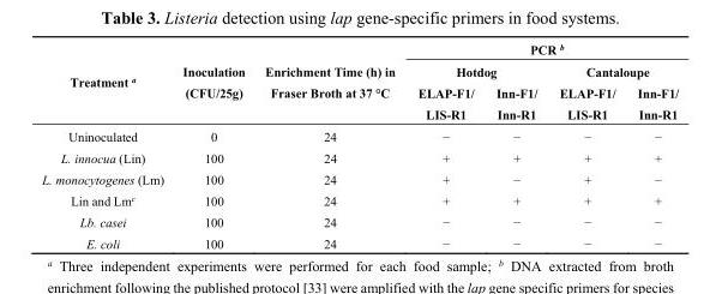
<table><thead><tr><td rowspan="3">Treatment <sup>a</sup></td><td rowspan="3">Inoculation (CFU/25g)</td><td rowspan="3">Enrichment Time (h) in Fraser Broth at 37 °C</td><td colspan="4">PCR <sup>b</sup></td></tr><tr><td colspan="2">Hotdog</td><td colspan="2">Cantaloupe</td></tr><tr><td>ELAP-F1/ LIS-R1</td><td>Inn-F1/ Inn-R1</td><td>ELAP-F1/ LIS-R1</td><td>Inn-F1/ Inn-R1</td></tr></thead><tbody><tr><td>Uninoculated</td><td>0</td><td>24</td><td>−</td><td>−</td><td>−</td><td>−</td></tr><tr><td>L. innocua (Lin)</td><td>100</td><td>24</td><td>+</td><td>+</td><td>+</td><td>+</td></tr><tr><td>L. monocytogenes (Lm)</td><td>100</td><td>24</td><td>+</td><td>−</td><td>+</td><td>−</td></tr><tr><td>Lin and Lm<sup>c</sup></td><td>100</td><td>24</td><td>+</td><td>+</td><td>+</td><td>+</td></tr><tr><td>Lb. casei</td><td>100</td><td>24</td><td>−</td><td>−</td><td>−</td><td>−</td></tr><tr><td>E. coli</td><td>100</td><td>24</td><td>−</td><td>−</td><td>−</td><td>−</td></tr></tbody></table>